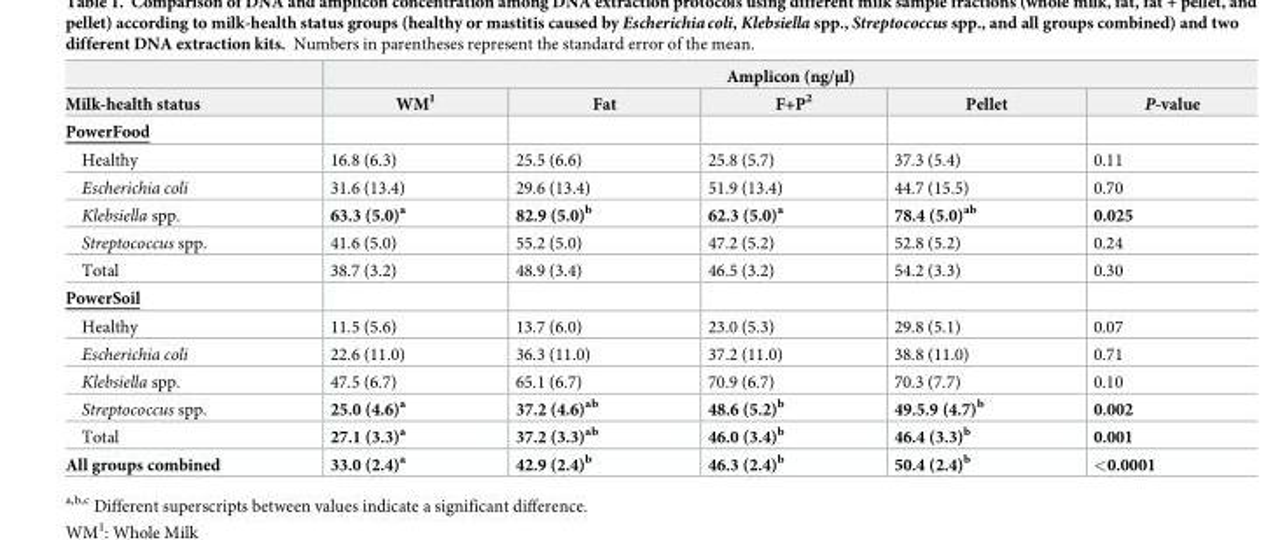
<table><thead><tr><td rowspan="2">Milk-health status</td><td colspan="5">Amplicon (ng/μl)</td></tr><tr><td>WM<sup>1</sup></td><td>Fat</td><td>F+P<sup>2</sup></td><td>Pellet</td><td>P-value</td></tr></thead><tbody><tr><td colspan="6">PowerFood</td></tr><tr><td>Healthy</td><td>16.8 (6.3)</td><td>25.5 (6.6)</td><td>25.8 (5.7)</td><td>37.3 (5.4)</td><td>0.11</td></tr><tr><td>Escherichia coli</td><td>31.6 (13.4)</td><td>29.6 (13.4)</td><td>51.9 (13.4)</td><td>44.7 (15.5)</td><td>0.70</td></tr><tr><td>Klebsiella spp.</td><td>63.3 (5.0)<sup>a</sup></td><td>82.9 (5.0)<sup>b</sup></td><td>62.3 (5.0)<sup>a</sup></td><td>78.4 (5.0)<sup>ab</sup></td><td>0.025</td></tr><tr><td>Streptococcus spp.</td><td>41.6 (5.0)</td><td>55.2 (5.0)</td><td>47.2 (5.2)</td><td>52.8 (5.2)</td><td>0.24</td></tr><tr><td>Total</td><td>38.7 (3.2)</td><td>48.9 (3.4)</td><td>46.5 (3.2)</td><td>54.2 (3.3)</td><td>0.30</td></tr><tr><td colspan="6">PowerSoil</td></tr><tr><td>Healthy</td><td>11.5 (5.6)</td><td>13.7 (6.0)</td><td>23.0 (5.3)</td><td>29.8 (5.1)</td><td>0.07</td></tr><tr><td>Escherichia coli</td><td>22.6 (11.0)</td><td>36.3 (11.0)</td><td>37.2 (11.0)</td><td>38.8 (11.0)</td><td>0.71</td></tr><tr><td>Klebsiella spp.</td><td>47.5 (6.7)</td><td>65.1 (6.7)</td><td>70.9 (6.7)</td><td>70.3 (7.7)</td><td>0.10</td></tr><tr><td>Streptococcus spp.</td><td>25.0 (4.6)<sup>a</sup></td><td>37.2 (4.6)<sup>ab</sup></td><td>48.6 (5.2)<sup>b</sup></td><td>49.5.9 (4.7)<sup>b</sup></td><td>0.002</td></tr><tr><td>Total</td><td>27.1 (3.3)<sup>a</sup></td><td>37.2 (3.3)<sup>ab</sup></td><td>46.0 (3.4)<sup>b</sup></td><td>46.4 (3.3)<sup>b</sup></td><td>0.001</td></tr><tr><td>All groups combined</td><td>33.0 (2.4)<sup>a</sup></td><td>42.9 (2.4)<sup>b</sup></td><td>46.3 (2.4)<sup>b</sup></td><td>50.4 (2.4)<sup>b</sup></td><td>&lt;0.0001</td></tr></tbody></table>